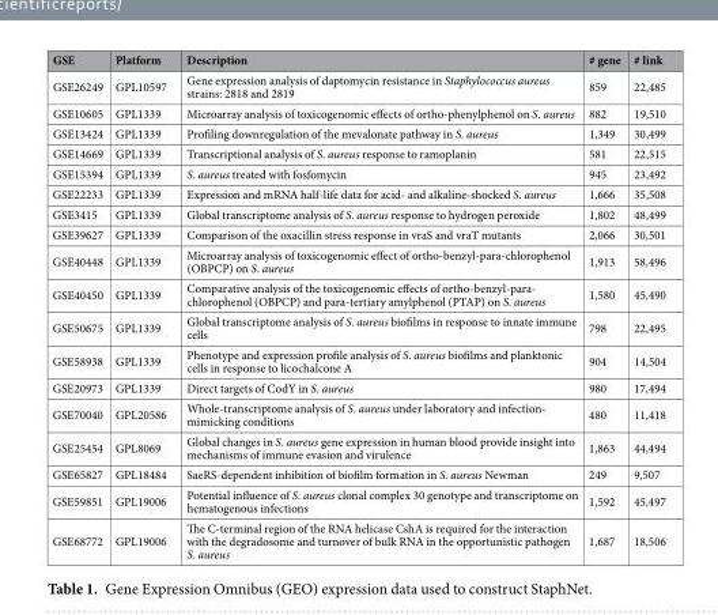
<table><thead><tr><td>GSE</td><td>Platform</td><td>Description</td><td># gene</td><td># link</td></tr></thead><tbody><tr><td>GSE26249</td><td>GPL10597</td><td>Gene expression analysis of daptomycin resistance in Staphylococcus aureus strains: 2818 and 2819</td><td>859</td><td>22,485</td></tr><tr><td>GSE10605</td><td>GPL1339</td><td>Microarray analysis of toxicogenomic effects of ortho-phenylphenol on S. aureus</td><td>882</td><td>19,510</td></tr><tr><td>GSE13424</td><td>GPL1339</td><td>Profiling downregulation of the mevalonate pathway in S. aureus</td><td>1,349</td><td>30,499</td></tr><tr><td>GSE14669</td><td>GPL1339</td><td>Transcriptional analysis of S. aureus response to ramoplanin</td><td>581</td><td>22,515</td></tr><tr><td>GSE15394</td><td>GPL1339</td><td>S. aureus treated with fosfomycin</td><td>945</td><td>23,492</td></tr><tr><td>GSE22233</td><td>GPL1339</td><td>Expression and mRNA half-life data for acid- and alkaline-shocked S. aureus</td><td>1,666</td><td>35,508</td></tr><tr><td>GSE3415</td><td>GPL1339</td><td>Global transcriptome analysis of S. aureus response to hydrogen peroxide</td><td>1,802</td><td>48,499</td></tr><tr><td>GSE39627</td><td>GPL1339</td><td>Comparison of the oxacillin stress response in vraS and vraT mutants</td><td>2,066</td><td>30,501</td></tr><tr><td>GSE40448</td><td>GPL1339</td><td>Microarray analysis of toxicogenomic effect of ortho-benzyl-para-chlorophenol (OBPCP) on S. aureus</td><td>1,913</td><td>58,496</td></tr><tr><td>GSE40450</td><td>GPL1339</td><td>Comparative analysis of the toxicogenomic effects of ortho-benzyl-para- chlorophenol (OBPCP) and para-tertiary amylphenol (PTAP) on S. aureus</td><td>1,580</td><td>45,490</td></tr><tr><td>GSE50675</td><td>GPL1339</td><td>Global transcriptome analysis of S. aureus biofilms in response to innate immune cells</td><td>798</td><td>22,495</td></tr><tr><td>GSE58938</td><td>GPL1339</td><td>Phenotype and expression profile analysis of S. aureus biofilms and planktonic cells in response to licochalcone A</td><td>904</td><td>14,504</td></tr><tr><td>GSE20973</td><td>GPL1339</td><td>Direct targets of CodY in S. aureus</td><td>980</td><td>17,494</td></tr><tr><td>GSE70040</td><td>GPL20586</td><td>Whole-transcriptome analysis of S. aureus under laboratory and infection- mimicking conditions</td><td>480</td><td>11,418</td></tr><tr><td>GSE25454</td><td>GPL8069</td><td>Global changes in S. aureus gene expression in human blood provide insight into mechanisms of immune evasion and virulence</td><td>1,863</td><td>44,494</td></tr><tr><td>GSE65827</td><td>GPL18484</td><td>SaeRS-dependent inhibition of biofilm formation in S. aureus Newman</td><td>249</td><td>9,507</td></tr><tr><td>GSE59851</td><td>GPL19006</td><td>Potential influence of S. aureus clonal complex 30 genotype and transcriptome on hematogenous infections</td><td>1,592</td><td>45,497</td></tr><tr><td>GSE68772</td><td>GPL19006</td><td>The C-terminal region of the RNA helicase CshA is required for the interaction with the degradosome and turnover of bulk RNA in the opportunistic pathogen S. aureus</td><td>1,687</td><td>18,506</td></tr></tbody></table>